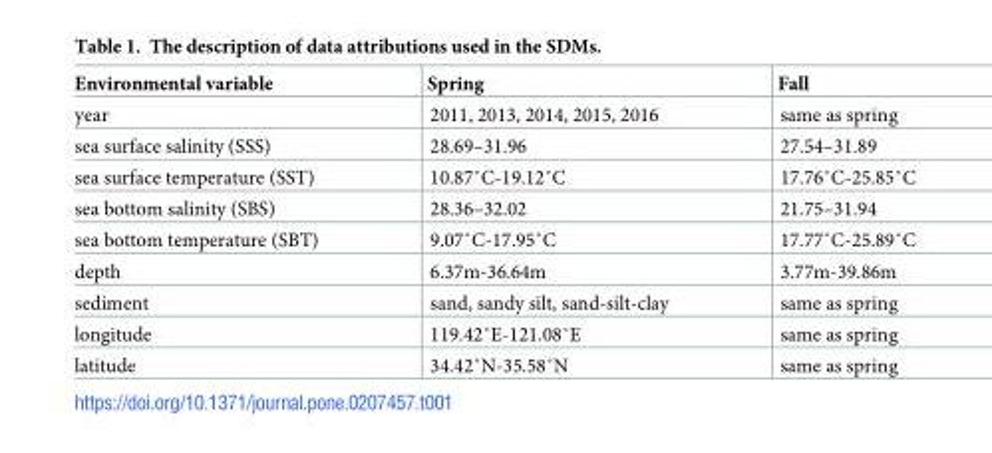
<table><thead><tr><td>Environmental variable</td><td>Spring</td><td>Fall</td></tr></thead><tbody><tr><td>year</td><td>2011, 2013, 2014, 2015, 2016</td><td>same as spring</td></tr><tr><td>sea surface salinity (SSS)</td><td>28.69–31.96</td><td>27.54–31.89</td></tr><tr><td>sea surface temperature (SST)</td><td>10.87˚C-19.12˚C</td><td>17.76˚C-25.85˚C</td></tr><tr><td>sea bottom salinity (SBS)</td><td>28.36–32.02</td><td>21.75–31.94</td></tr><tr><td>sea bottom temperature (SBT)</td><td>9.07˚C-17.95˚C</td><td>17.77˚C-25.89˚C</td></tr><tr><td>depth</td><td>6.37m-36.64m</td><td>3.77m-39.86m</td></tr><tr><td>sediment</td><td>sand, sandy silt, sand-silt-clay</td><td>same as spring</td></tr><tr><td>longitude</td><td>119.42˚E-121.08˚E</td><td>same as spring</td></tr><tr><td>latitude</td><td>34.42˚N-35.58˚N</td><td>same as spring</td></tr></tbody></table>